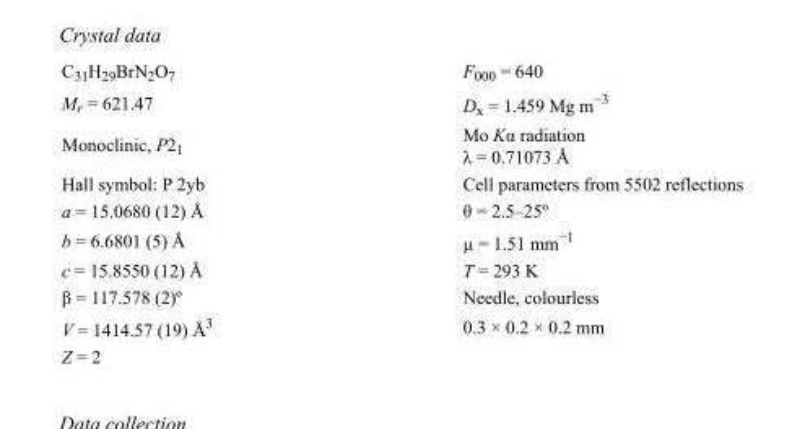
<table><tbody><tr><td>C<sub>31</sub>H<sub>29</sub>BrN<sub>2</sub>O<sub>7</sub></td><td>F000 = 640</td></tr><tr><td>M<sub>r</sub> = 621.47</td><td>D<sub>x</sub> = 1.459 Mg m<sup>−3</sup></td></tr><tr><td>Monoclinic, P2<sub>1</sub></td><td>Mo Kα radiation λ = 0.71073 Å</td></tr><tr><td>Hall symbol: P 2yb</td><td>Cell parameters from 5502 reflections</td></tr><tr><td>a = 15.0680 (12) Å</td><td>θ = 2.5–25º</td></tr><tr><td>b = 6.6801 (5) Å</td><td>µ = 1.51 mm<sup>−1</sup></td></tr><tr><td>c = 15.8550 (12) Å</td><td>T = 293 K</td></tr><tr><td>β = 117.578 (2)º</td><td>Needle, colourless</td></tr><tr><td>V = 1414.57 (19) Å<sup>3</sup></td><td>0.3 × 0.2 × 0.2 mm</td></tr><tr><td>Z = 2</td><td></td></tr></tbody></table>